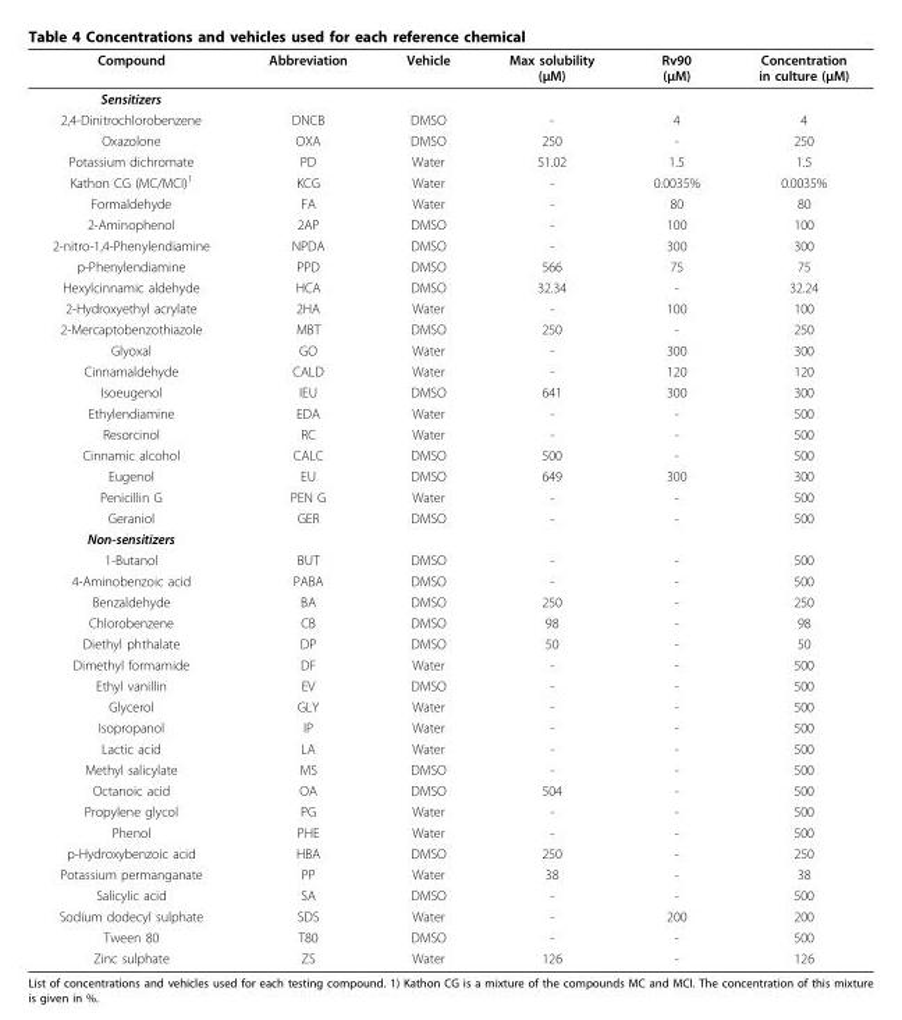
<table><thead><tr><td>Compound</td><td>Abbreviation</td><td>Vehicle</td><td>Max solubility (μM)</td><td>Rv90 (μM)</td><td>Concentration in culture (μM)</td></tr></thead><tbody><tr><td colspan="6">Sensitizers</td></tr><tr><td>2,4-Dinitrochlorobenzene</td><td>DNCB</td><td>DMSO</td><td>-</td><td>4</td><td>4</td></tr><tr><td>Oxazolone</td><td>OXA</td><td>DMSO</td><td>250</td><td>-</td><td>250</td></tr><tr><td>Potassium dichromate</td><td>PD</td><td>Water</td><td>51.02</td><td>1.5</td><td>1.5</td></tr><tr><td>Kathon CG (MC/MCI)<sup>1</sup></td><td>KCG</td><td>Water</td><td>-</td><td>0.0035%</td><td>0.0035%</td></tr><tr><td>Formaldehyde</td><td>FA</td><td>Water</td><td>-</td><td>80</td><td>80</td></tr><tr><td>2-Aminophenol</td><td>2AP</td><td>DMSO</td><td>-</td><td>100</td><td>100</td></tr><tr><td>2-nitro-1,4-Phenylendiamine</td><td>NPDA</td><td>DMSO</td><td>-</td><td>300</td><td>300</td></tr><tr><td>p-Phenylendiamine</td><td>PPD</td><td>DMSO</td><td>566</td><td>75</td><td>75</td></tr><tr><td>Hexylcinnamic aldehyde</td><td>HCA</td><td>DMSO</td><td>32.34</td><td>-</td><td>32.24</td></tr><tr><td>2-Hydroxyethyl acrylate</td><td>2HA</td><td>Water</td><td>-</td><td>100</td><td>100</td></tr><tr><td>2-Mercaptobenzothiazole</td><td>MBT</td><td>DMSO</td><td>250</td><td>-</td><td>250</td></tr><tr><td>Glyoxal</td><td>GO</td><td>Water</td><td>-</td><td>300</td><td>300</td></tr><tr><td>Cinnamaldehyde</td><td>CALD</td><td>Water</td><td>-</td><td>120</td><td>120</td></tr><tr><td>Isoeugenol</td><td>IEU</td><td>DMSO</td><td>641</td><td>300</td><td>300</td></tr><tr><td>Ethylendiamine</td><td>EDA</td><td>Water</td><td>-</td><td>-</td><td>500</td></tr><tr><td>Resorcinol</td><td>RC</td><td>Water</td><td>-</td><td>-</td><td>500</td></tr><tr><td>Cinnamic alcohol</td><td>CALC</td><td>DMSO</td><td>500</td><td>-</td><td>500</td></tr><tr><td>Eugenol</td><td>EU</td><td>DMSO</td><td>649</td><td>300</td><td>300</td></tr><tr><td>Penicillin G</td><td>PEN G</td><td>Water</td><td>-</td><td>-</td><td>500</td></tr><tr><td>Geraniol</td><td>GER</td><td>DMSO</td><td>-</td><td>-</td><td>500</td></tr><tr><td colspan="6">Non-sensitizers</td></tr><tr><td>1-Butanol</td><td>BUT</td><td>DMSO</td><td>-</td><td>-</td><td>500</td></tr><tr><td>4-Aminobenzoic acid</td><td>PABA</td><td>DMSO</td><td>-</td><td>-</td><td>500</td></tr><tr><td>Benzaldehyde</td><td>BA</td><td>DMSO</td><td>250</td><td>-</td><td>250</td></tr><tr><td>Chlorobenzene</td><td>CB</td><td>DMSO</td><td>98</td><td>-</td><td>98</td></tr><tr><td>Diethyl phthalate</td><td>DP</td><td>DMSO</td><td>50</td><td>-</td><td>50</td></tr><tr><td>Dimethyl formamide</td><td>DF</td><td>Water</td><td>-</td><td>-</td><td>500</td></tr><tr><td>Ethyl vanillin</td><td>EV</td><td>DMSO</td><td>-</td><td>-</td><td>500</td></tr><tr><td>Glycerol</td><td>GLY</td><td>Water</td><td>-</td><td>-</td><td>500</td></tr><tr><td>Isopropanol</td><td>IP</td><td>Water</td><td>-</td><td>-</td><td>500</td></tr><tr><td>Lactic acid</td><td>LA</td><td>Water</td><td>-</td><td>-</td><td>500</td></tr><tr><td>Methyl salicylate</td><td>MS</td><td>DMSO</td><td>-</td><td>-</td><td>500</td></tr><tr><td>Octanoic acid</td><td>OA</td><td>DMSO</td><td>504</td><td>-</td><td>500</td></tr><tr><td>Propylene glycol</td><td>PG</td><td>Water</td><td>-</td><td>-</td><td>500</td></tr><tr><td>Phenol</td><td>PHE</td><td>Water</td><td>-</td><td>-</td><td>500</td></tr><tr><td>p-Hydroxybenzoic acid</td><td>HBA</td><td>DMSO</td><td>250</td><td>-</td><td>250</td></tr><tr><td>Potassium permanganate</td><td>PP</td><td>Water</td><td>38</td><td>-</td><td>38</td></tr><tr><td>Salicylic acid</td><td>SA</td><td>DMSO</td><td>-</td><td>-</td><td>500</td></tr><tr><td>Sodium dodecyl sulphate</td><td>SDS</td><td>Water</td><td>-</td><td>200</td><td>200</td></tr><tr><td>Tween 80</td><td>T80</td><td>DMSO</td><td>-</td><td>-</td><td>500</td></tr><tr><td>Zinc sulphate</td><td>ZS</td><td>Water</td><td>126</td><td>-</td><td>126</td></tr></tbody></table>